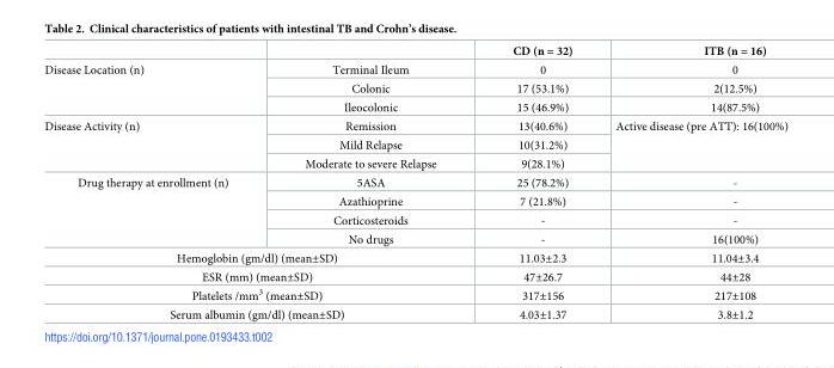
<table><thead><tr><td></td><td></td><td>CD (n = 32)</td><td>ITB (n = 16)</td></tr></thead><tbody><tr><td rowspan="3">Disease Location (n)</td><td>Terminal Ileum</td><td>0</td><td>0</td></tr><tr><td>Colonic</td><td>17 (53.1%)</td><td>2(12.5%)</td></tr><tr><td>Ileocolonic</td><td>15 (46.9%)</td><td>14(87.5%)</td></tr><tr><td rowspan="3">Disease Activity (n)</td><td>Remission</td><td>13(40.6%)</td><td rowspan="3">Active disease (pre ATT): 16(100%)</td></tr><tr><td>Mild Relapse</td><td>10(31.2%)</td></tr><tr><td>Moderate to severe Relapse</td><td>9(28.1%)</td></tr><tr><td rowspan="4">Drug therapy at enrollment (n)</td><td>5ASA</td><td>25 (78.2%)</td><td>-</td></tr><tr><td>Azathioprine</td><td>7 (21.8%)</td><td>-</td></tr><tr><td>Corticosteroids</td><td>-</td><td>-</td></tr><tr><td>No drugs</td><td>-</td><td>16(100%)</td></tr><tr><td colspan="2">Hemoglobin (gm/dl) (mean±SD)</td><td>11.03±2.3</td><td>11.04±3.4</td></tr><tr><td colspan="2">ESR (mm) (mean±SD)</td><td>47±26.7</td><td>44±28</td></tr><tr><td colspan="2">Platelets /mm<sup>3</sup> (mean±SD)</td><td>317±156</td><td>217±108</td></tr><tr><td colspan="2">Serum albumin (gm/dl) (mean±SD)</td><td>4.03±1.37</td><td>3.8±1.2</td></tr></tbody></table>